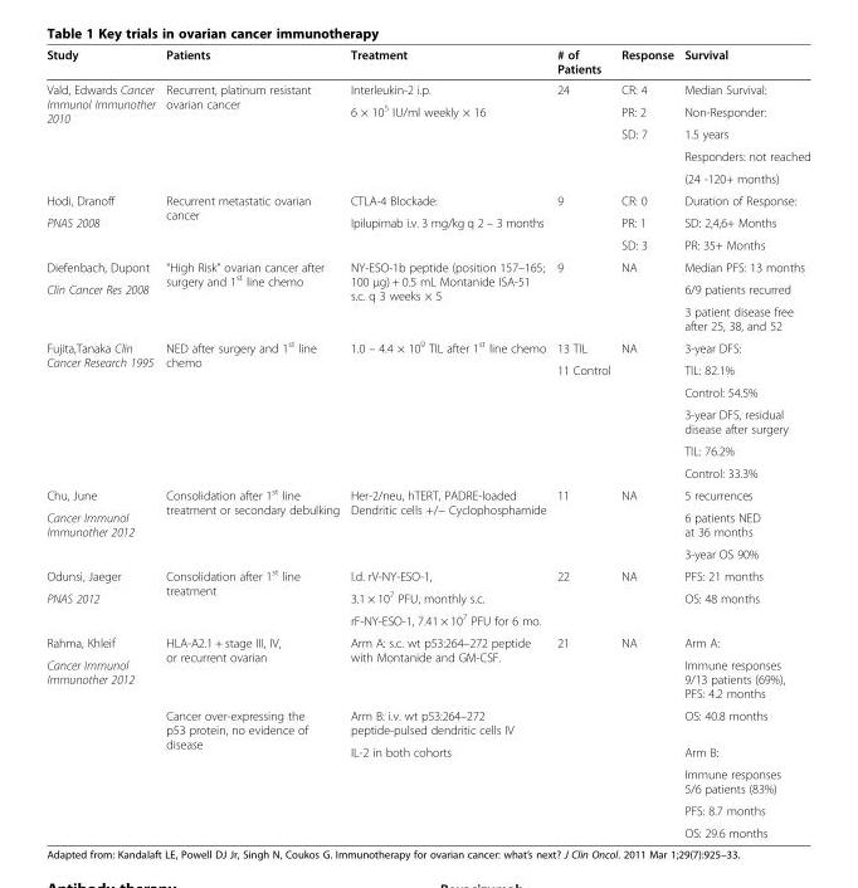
<table><thead><tr><td>Study</td><td>Patients</td><td>Treatment</td><td># of Patients</td><td>Response</td><td>Survival</td></tr></thead><tbody><tr><td rowspan="5">Vald, Edwards Cancer Immunol Immunother 2010</td><td rowspan="5">Recurrent, platinum resistant ovarian cancer</td><td>Interleukin-2 i.p.</td><td rowspan="5">24</td><td>CR: 4</td><td>Median Survival:</td></tr><tr><td rowspan="4">6 × 10<sup>5</sup> IU/ml weekly × 16</td><td>PR: 2</td><td>Non-Responder:</td></tr><tr><td rowspan="3">SD: 7</td><td>1.5 years</td></tr><tr><td>Responders: not reached</td></tr><tr><td>(24 -120+ months)</td></tr><tr><td>Hodi, Dranoff</td><td rowspan="3">Recurrent metastatic ovarian cancer</td><td>CTLA-4 Blockade:</td><td>9</td><td>CR: 0</td><td>Duration of Response:</td></tr><tr><td rowspan="2">PNAS 2008</td><td rowspan="2">Ipilupimab i.v. 3 mg/kg q 2 – 3 months</td><td rowspan="2"></td><td>PR: 1</td><td>SD: 2,4,6+ Months</td></tr><tr><td>SD: 3</td><td>PR: 35+ Months</td></tr><tr><td>Diefenbach, Dupont</td><td rowspan="3">“High Risk” ovarian cancer after surgery and 1<sup>st</sup> line chemo</td><td rowspan="3">NY-ESO-1b peptide (position 157–165; 100 μg) + 0.5 mL Montanide ISA-51 s.c. q 3 weeks × 5</td><td rowspan="3">9</td><td rowspan="3">NA</td><td>Median PFS: 13 months</td></tr><tr><td rowspan="2">Clin Cancer Res 2008</td><td>6/9 patients recurred</td></tr><tr><td>3 patient disease free after 25, 38, and 52</td></tr><tr><td rowspan="6">Fujita,Tanaka Clin Cancer Research 1995</td><td rowspan="6">NED after surgery and 1<sup>st</sup> line chemo</td><td rowspan="6">1.0 – 4.4 × 10<sup>9</sup> TIL after 1<sup>st</sup> line chemo</td><td>13 TIL</td><td rowspan="6">NA</td><td>3-year DFS:</td></tr><tr><td rowspan="5">11 Control</td><td>TIL: 82.1%</td></tr><tr><td>Control: 54.5%</td></tr><tr><td>3-year DFS, residual disease after surgery</td></tr><tr><td>TIL: 76.2%</td></tr><tr><td>Control: 33.3%</td></tr><tr><td>Chu, June</td><td rowspan="3">Consolidation after 1<sup>st</sup> line treatment or secondary debulking</td><td rowspan="3">Her-2/neu, hTERT, PADRE-loaded Dendritic cells +/− Cyclophosphamide</td><td rowspan="3">11</td><td rowspan="3">NA</td><td>5 recurrences</td></tr><tr><td rowspan="2">Cancer Immunol Immunother 2012</td><td>6 patients NED at 36 months</td></tr><tr><td>3-year OS 90%</td></tr><tr><td>Odunsi, Jaeger</td><td rowspan="3">Consolidation after 1<sup>st</sup> line treatment</td><td>I.d. rV-NY-ESO-1,</td><td rowspan="3">22</td><td rowspan="3">NA</td><td>PFS: 21 months</td></tr><tr><td rowspan="2">PNAS 2012</td><td>3.1 × 10<sup>7</sup> PFU, monthly s.c.</td><td rowspan="2">OS: 48 months</td></tr><tr><td>rF-NY-ESO-1, 7.41 × 10<sup>7</sup> PFU for 6 mo.</td></tr><tr><td>Rahma, Khleif</td><td rowspan="2">HLA-A2.1 + stage III, IV, or recurrent ovarian</td><td rowspan="2">Arm A: s.c. wt p53:264–272 peptide with Montanide and GM-CSF.</td><td rowspan="7">21</td><td rowspan="7">NA</td><td>Arm A:</td></tr><tr><td rowspan="6">Cancer Immunol Immunother 2012</td><td>Immune responses 9/13 patients (69%), PFS: 4.2 months</td></tr><tr><td rowspan="5">Cancer over-expressing the p53 protein, no evidence of disease</td><td>Arm B: i.v. wt p53:264–272 peptide-pulsed dendritic cells IV</td><td>OS: 40.8 months</td></tr><tr><td rowspan="4">IL-2 in both cohorts</td><td>Arm B:</td></tr><tr><td>Immune responses 5/6 patients (83%)</td></tr><tr><td>PFS: 8.7 months</td></tr><tr><td>OS: 29.6 months</td></tr></tbody></table>